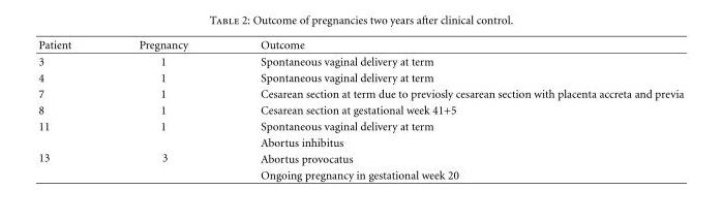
<table><thead><tr><td>Patient</td><td>Pregnancy</td><td>Outcome</td></tr></thead><tbody><tr><td>3</td><td>1</td><td>Spontaneous vaginal delivery at term</td></tr><tr><td>4</td><td>1</td><td>Spontaneous vaginal delivery at term</td></tr><tr><td>7</td><td>1</td><td>Cesarean section at term due to previosly cesarean section with placenta accreta and previa</td></tr><tr><td>8</td><td>1</td><td>Cesarean section at gestational week 41+5</td></tr><tr><td>11</td><td>1</td><td>Spontaneous vaginal delivery at term</td></tr><tr><td rowspan="3">13</td><td rowspan="3">3</td><td>Abortus inhibitus</td></tr><tr><td>Abortus provocatus</td></tr><tr><td>Ongoing pregnancy in gestational week 20</td></tr></tbody></table>